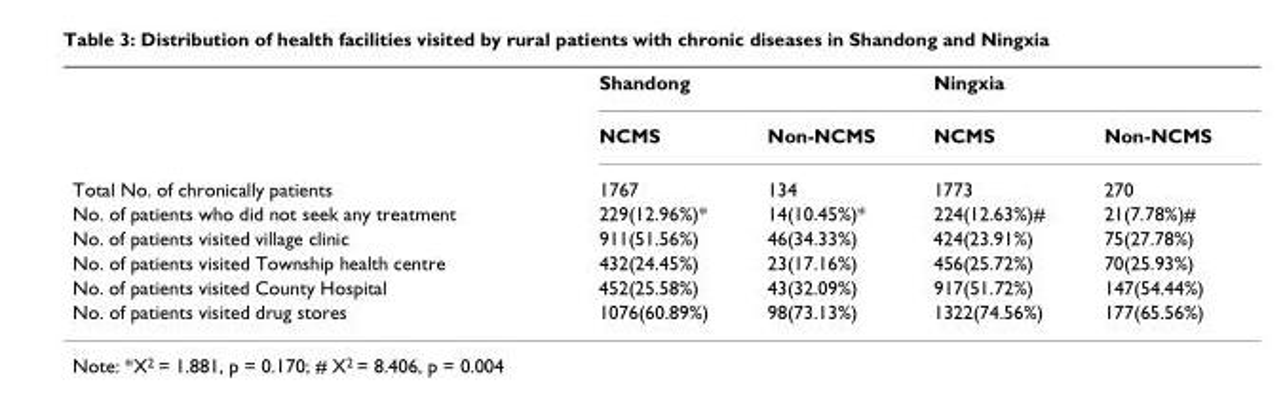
<table><thead><tr><td rowspan="2"></td><td colspan="2">Shandong</td><td colspan="2">Ningxia</td></tr><tr><td>NCMS</td><td>Non-NCMS</td><td>NCMS</td><td>Non-NCMS</td></tr></thead><tbody><tr><td>Total No. of chronically patients</td><td>1767</td><td>134</td><td>1773</td><td>270</td></tr><tr><td>No. of patients who did not seek any treatment</td><td>229(12.96%)*</td><td>14(10.45%)*</td><td>224(12.63%)#</td><td>21(7.78%)#</td></tr><tr><td>No. of patients visited village clinic</td><td>911(51.56%)</td><td>46(34.33%)</td><td>424(23.91%)</td><td>75(27.78%)</td></tr><tr><td>No. of patients visited Township health centre</td><td>432(24.45%)</td><td>23(17.16%)</td><td>456(25.72%)</td><td>70(25.93%)</td></tr><tr><td>No. of patients visited County Hospital</td><td>452(25.58%)</td><td>43(32.09%)</td><td>917(51.72%)</td><td>147(54.44%)</td></tr><tr><td>No. of patients visited drug stores</td><td>1076(60.89%)</td><td>98(73.13%)</td><td>1322(74.56%)</td><td>177(65.56%)</td></tr></tbody></table>